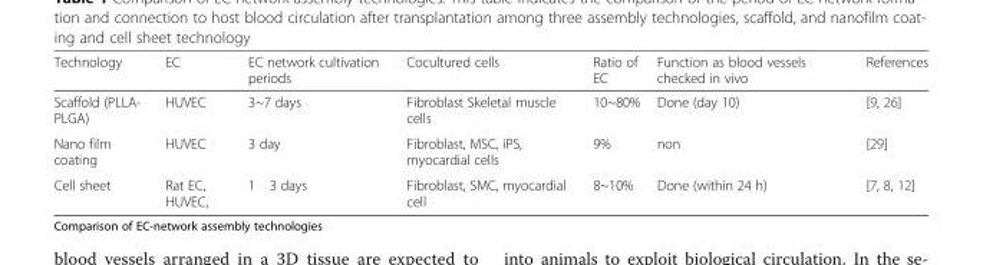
<table><thead><tr><td>Technology</td><td>EC</td><td>EC network cultivation periods</td><td>Cocultured cells</td><td>Ratio of EC</td><td>Function as blood vessels checked in vivo</td><td>References</td></tr></thead><tbody><tr><td>Scaffold (PLLA- PLGA)</td><td>HUVEC</td><td>3~7 days</td><td>Fibroblast Skeletal muscle cells</td><td>10~80%</td><td>Done (day 10)</td><td>[9, 26]</td></tr><tr><td>Nano film coating</td><td>HUVEC</td><td>3 day</td><td>Fibroblast, MSC, iPS, myocardial cells</td><td>9%</td><td>non</td><td>[29]</td></tr><tr><td>Cell sheet</td><td>Rat EC, HUVEC,</td><td>1 3 days</td><td>Fibroblast, SMC, myocardial cell</td><td>8~10%</td><td>Done (within 24 h)</td><td>[7, 8, 12]</td></tr></tbody></table>